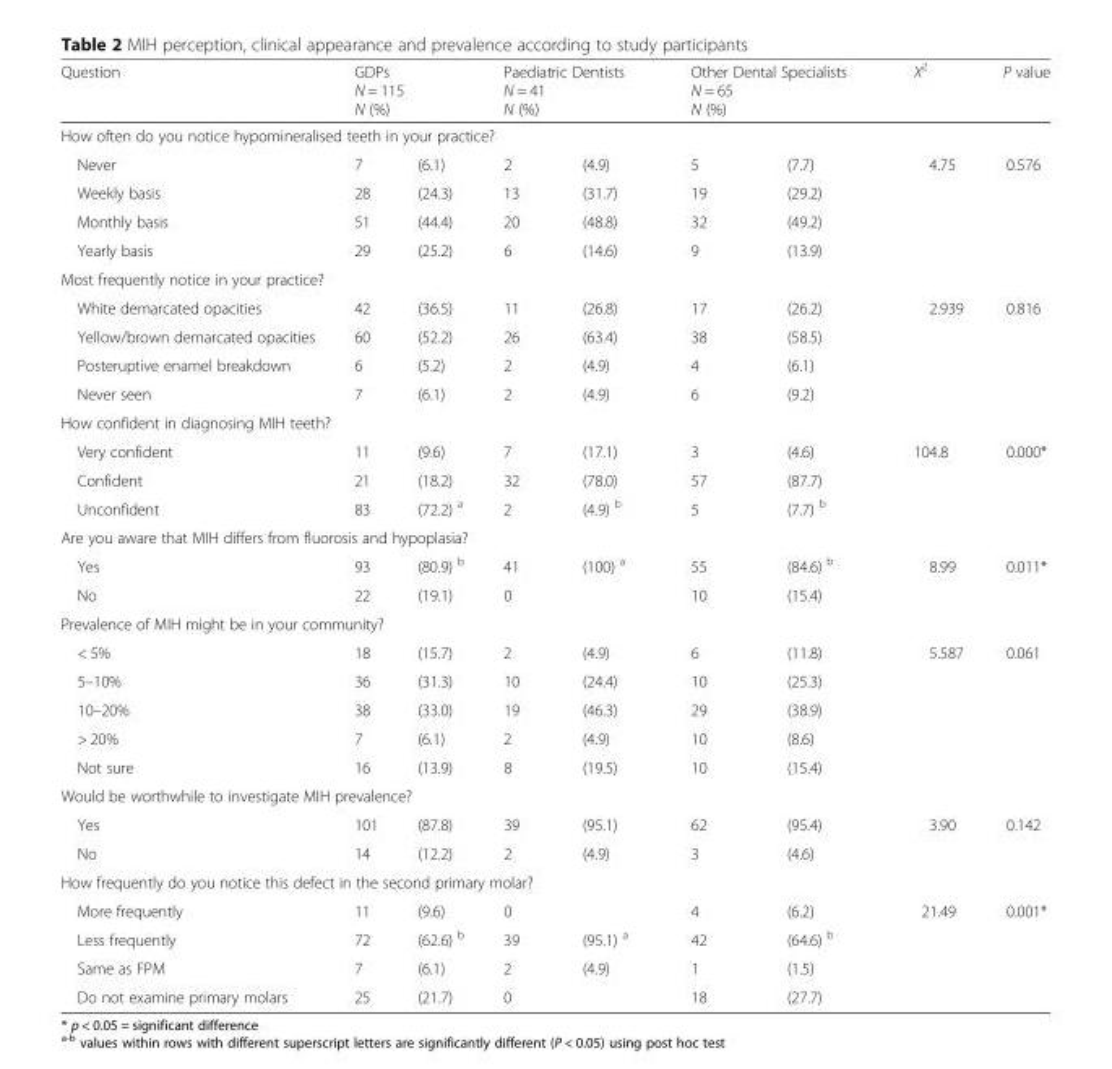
<table><thead><tr><td>Question</td><td colspan="2">GDPs N = 115 N (%)</td><td colspan="2">Paediatric Dentists N = 41 N (%)</td><td colspan="2">Other Dental Specialists N = 65 N (%)</td><td>X<sup>2</sup></td><td>P value</td></tr><tr><td colspan="9">How often do you notice hypomineralised teeth in your practice?</td></tr><tr><td>Never</td><td>7</td><td>(6.1)</td><td>2</td><td>(4.9)</td><td>5</td><td>(7.7)</td><td>4.75</td><td>0.576</td></tr></thead><tbody><tr><td>Weekly basis</td><td>28</td><td>(24.3)</td><td>13</td><td>(31.7)</td><td>19</td><td>(29.2)</td><td></td><td></td></tr><tr><td>Monthly basis</td><td>51</td><td>(44.4)</td><td>20</td><td>(48.8)</td><td>32</td><td>(49.2)</td><td></td><td></td></tr><tr><td>Yearly basis</td><td>29</td><td>(25.2)</td><td>6</td><td>(14.6)</td><td>9</td><td>(13.9)</td><td></td><td></td></tr><tr><td colspan="9">Most frequently notice in your practice?</td></tr><tr><td>White demarcated opacities</td><td>42</td><td>(36.5)</td><td>11</td><td>(26.8)</td><td>17</td><td>(26.2)</td><td>2.939</td><td>0.816</td></tr><tr><td>Yellow/brown demarcated opacities</td><td>60</td><td>(52.2)</td><td>26</td><td>(63.4)</td><td>38</td><td>(58.5)</td><td></td><td></td></tr><tr><td>Posteruptive enamel breakdown</td><td>6</td><td>(5.2)</td><td>2</td><td>(4.9)</td><td>4</td><td>(6.1)</td><td></td><td></td></tr><tr><td>Never seen</td><td>7</td><td>(6.1)</td><td>2</td><td>(4.9)</td><td>6</td><td>(9.2)</td><td></td><td></td></tr><tr><td colspan="9">How confident in diagnosing MIH teeth?</td></tr><tr><td>Very confident</td><td>11</td><td>(9.6)</td><td>7</td><td>(17.1)</td><td>3</td><td>(4.6)</td><td>104.8</td><td>0.000*</td></tr><tr><td>Confident</td><td>21</td><td>(18.2)</td><td>32</td><td>(78.0)</td><td>57</td><td>(87.7)</td><td></td><td></td></tr><tr><td>Unconfident</td><td>83</td><td>(72.2) <sup>a</sup></td><td>2</td><td>(4.9) <sup>b</sup></td><td>5</td><td>(7.7) <sup>b</sup></td><td></td><td></td></tr><tr><td colspan="9">Are you aware that MIH differs from fluorosis and hypoplasia?</td></tr><tr><td>Yes</td><td>93</td><td>(80.9) <sup>b</sup></td><td>41</td><td>(100) <sup>a</sup></td><td>55</td><td>(84.6) <sup>b</sup></td><td>8.99</td><td>0.011*</td></tr><tr><td>No</td><td>22</td><td>(19.1)</td><td>0</td><td></td><td>10</td><td>(15.4)</td><td></td><td></td></tr><tr><td colspan="9">Prevalence of MIH might be in your community?</td></tr><tr><td>&lt; 5%</td><td>18</td><td>(15.7)</td><td>2</td><td>(4.9)</td><td>6</td><td>(11.8)</td><td>5.587</td><td>0.061</td></tr><tr><td>5–10%</td><td>36</td><td>(31.3)</td><td>10</td><td>(24.4)</td><td>10</td><td>(25.3)</td><td></td><td></td></tr><tr><td>10–20%</td><td>38</td><td>(33.0)</td><td>19</td><td>(46.3)</td><td>29</td><td>(38.9)</td><td></td><td></td></tr><tr><td>&gt; 20%</td><td>7</td><td>(6.1)</td><td>2</td><td>(4.9)</td><td>10</td><td>(8.6)</td><td></td><td></td></tr><tr><td>Not sure</td><td>16</td><td>(13.9)</td><td>8</td><td>(19.5)</td><td>10</td><td>(15.4)</td><td></td><td></td></tr><tr><td colspan="9">Would be worthwhile to investigate MIH prevalence?</td></tr><tr><td>Yes</td><td>101</td><td>(87.8)</td><td>39</td><td>(95.1)</td><td>62</td><td>(95.4)</td><td>3.90</td><td>0.142</td></tr><tr><td>No</td><td>14</td><td>(12.2)</td><td>2</td><td>(4.9)</td><td>3</td><td>(4.6)</td><td></td><td></td></tr><tr><td colspan="9">How frequently do you notice this defect in the second primary molar?</td></tr><tr><td>More frequently</td><td>11</td><td>(9.6)</td><td>0</td><td></td><td>4</td><td>(6.2)</td><td>21.49</td><td>0.001*</td></tr><tr><td>Less frequently</td><td>72</td><td>(62.6) <sup>b</sup></td><td>39</td><td>(95.1) <sup>a</sup></td><td>42</td><td>(64.6) <sup>b</sup></td><td></td><td></td></tr><tr><td>Same as FPM</td><td>7</td><td>(6.1)</td><td>2</td><td>(4.9)</td><td>1</td><td>(1.5)</td><td></td><td></td></tr><tr><td>Do not examine primary molars</td><td>25</td><td>(21.7)</td><td>0</td><td></td><td>18</td><td>(27.7)</td><td></td><td></td></tr></tbody></table>